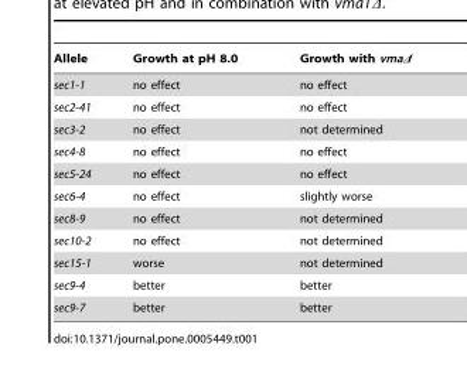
<table><thead><tr><td>Allele</td><td>Growth at pH 8.0</td><td>Growth with vmaΔ</td></tr></thead><tbody><tr><td>sec1-1</td><td>no effect</td><td>no effect</td></tr><tr><td>sec2-41</td><td>no effect</td><td>no effect</td></tr><tr><td>sec3-2</td><td>no effect</td><td>not determined</td></tr><tr><td>sec4-8</td><td>no effect</td><td>no effect</td></tr><tr><td>sec5-24</td><td>no effect</td><td>no effect</td></tr><tr><td>sec6-4</td><td>no effect</td><td>slightly worse</td></tr><tr><td>sec8-9</td><td>no effect</td><td>not determined</td></tr><tr><td>sec10-2</td><td>no effect</td><td>not determined</td></tr><tr><td>sec15-1</td><td>worse</td><td>not determined</td></tr><tr><td>sec9-4</td><td>better</td><td>better</td></tr><tr><td>sec9-7</td><td>better</td><td>better</td></tr></tbody></table>